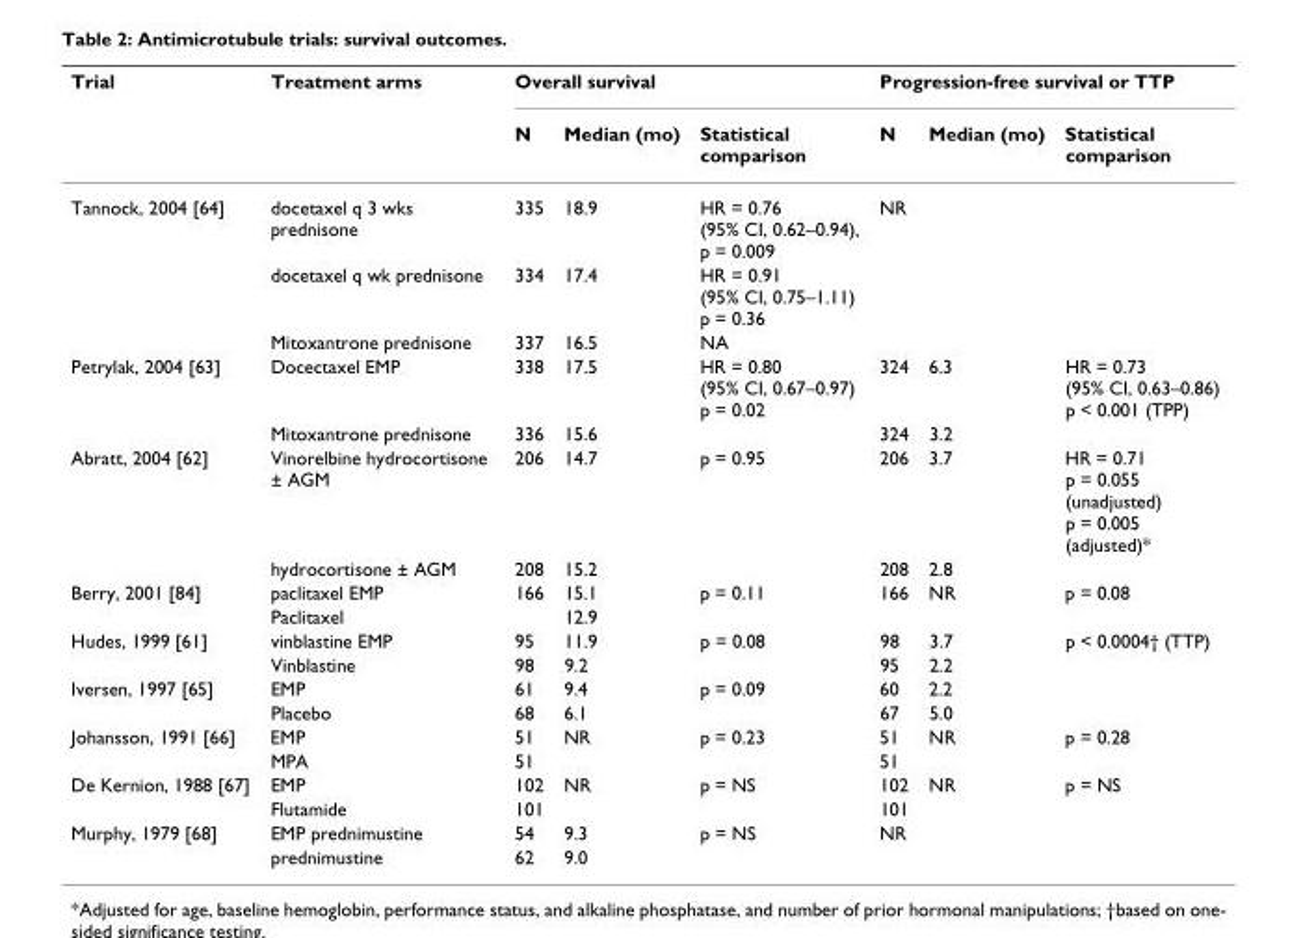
<table><thead><tr><td rowspan="2">Trial</td><td rowspan="2">Treatment arms</td><td colspan="3">Overall survival</td><td colspan="3">Progression-free survival or TTP</td></tr><tr><td>N</td><td>Median (mo)</td><td>Statistical comparison</td><td>N</td><td>Median (mo)</td><td>Statistical comparison</td></tr></thead><tbody><tr><td rowspan="3">Tannock, 2004 [64]</td><td>docetaxel q 3 wks prednisone</td><td>335</td><td>18.9</td><td>HR = 0.76 (95% CI, 0.62–0.94), p = 0.009</td><td colspan="3">NR</td></tr><tr><td>docetaxel q wk prednisone</td><td>334</td><td>17.4</td><td>HR = 0.91 (95% CI, 0.75–1.11) p = 0.36</td><td></td><td></td><td></td></tr><tr><td>Mitoxantrone prednisone</td><td>337</td><td>16.5</td><td>NA</td><td></td><td></td><td></td></tr><tr><td rowspan="2">Petrylak, 2004 [63]</td><td>Docectaxel EMP</td><td>338</td><td>17.5</td><td>HR = 0.80 (95% CI, 0.67–0.97) p = 0.02</td><td>324</td><td>6.3</td><td>HR = 0.73 (95% CI, 0.63–0.86) p &lt; 0.001 (TPP)</td></tr><tr><td>Mitoxantrone prednisone</td><td>336</td><td>15.6</td><td></td><td>324</td><td>3.2</td><td></td></tr><tr><td rowspan="2">Abratt, 2004 [62]</td><td>Vinorelbine hydrocortisone ± AGM</td><td>206</td><td>14.7</td><td>p = 0.95</td><td>206</td><td>3.7</td><td>HR = 0.71 p = 0.055 (unadjusted) p = 0.005 (adjusted)*</td></tr><tr><td>hydrocortisone ± AGM</td><td>208</td><td>15.2</td><td></td><td>208</td><td>2.8</td><td></td></tr><tr><td rowspan="2">Berry, 2001 [84]</td><td>paclitaxel EMP</td><td>166</td><td>15.1</td><td>p = 0.11</td><td>166</td><td>NR</td><td>p = 0.08</td></tr><tr><td>Paclitaxel</td><td></td><td>12.9</td><td></td><td></td><td></td><td></td></tr><tr><td rowspan="2">Hudes, 1999 [61]</td><td>vinblastine EMP</td><td>95</td><td>11.9</td><td>p = 0.08</td><td>98</td><td>3.7</td><td>p &lt; 0.0004† (TTP)</td></tr><tr><td>Vinblastine</td><td>98</td><td>9.2</td><td></td><td>95</td><td>2.2</td><td></td></tr><tr><td rowspan="2">Iversen, 1997 [65]</td><td>EMP</td><td>61</td><td>9.4</td><td>p = 0.09</td><td>60</td><td>2.2</td><td></td></tr><tr><td>Placebo</td><td>68</td><td>6.1</td><td></td><td>67</td><td>5.0</td><td></td></tr><tr><td rowspan="2">Johansson, 1991 [66]</td><td>EMP</td><td>51</td><td>NR</td><td>p = 0.23</td><td>51</td><td>NR</td><td>p = 0.28</td></tr><tr><td>MPA</td><td>51</td><td></td><td></td><td>51</td><td></td><td></td></tr><tr><td rowspan="2">De Kernion, 1988 [67]</td><td>EMP</td><td>102</td><td>NR</td><td>p = NS</td><td>102</td><td>NR</td><td>p = NS</td></tr><tr><td>Flutamide</td><td>101</td><td></td><td></td><td>101</td><td></td><td></td></tr><tr><td rowspan="2">Murphy, 1979 [68]</td><td>EMP prednimustine</td><td>54</td><td>9.3</td><td>p = NS</td><td colspan="3">NR</td></tr><tr><td>prednimustine</td><td>62</td><td>9.0</td><td></td><td></td><td></td><td></td></tr></tbody></table>